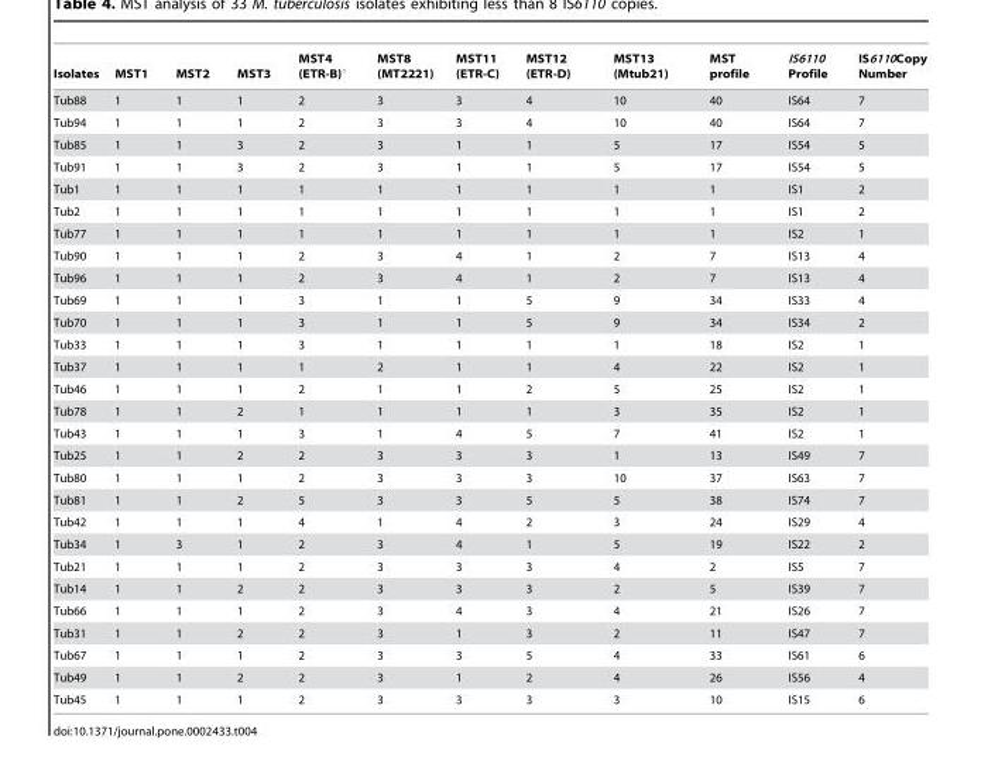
<table><thead><tr><td>Isolates</td><td>MST1</td><td>MST2</td><td>MST3</td><td>MST4 (ETR-B)°</td><td>MST8 (MT2221)</td><td>MST11 (ETR-C)</td><td>MST12 (ETR-D)</td><td>MST13 (Mtub21)</td><td>MST profile</td><td>IS6110 Profile</td><td>IS6110Copy Number</td></tr></thead><tbody><tr><td>Tub88</td><td>1</td><td>1</td><td>1</td><td>2</td><td>3</td><td>3</td><td>4</td><td>10</td><td>40</td><td>IS64</td><td>7</td></tr><tr><td>Tub94</td><td>1</td><td>1</td><td>1</td><td>2</td><td>3</td><td>3</td><td>4</td><td>10</td><td>40</td><td>IS64</td><td>7</td></tr><tr><td>Tub85</td><td>1</td><td>1</td><td>3</td><td>2</td><td>3</td><td>1</td><td>1</td><td>5</td><td>17</td><td>IS54</td><td>5</td></tr><tr><td>Tub91</td><td>1</td><td>1</td><td>3</td><td>2</td><td>3</td><td>1</td><td>1</td><td>5</td><td>17</td><td>IS54</td><td>5</td></tr><tr><td>Tub1</td><td>1</td><td>1</td><td>1</td><td>1</td><td>1</td><td>1</td><td>1</td><td>1</td><td>1</td><td>IS1</td><td>2</td></tr><tr><td>Tub2</td><td>1</td><td>1</td><td>1</td><td>1</td><td>1</td><td>1</td><td>1</td><td>1</td><td>1</td><td>IS1</td><td>2</td></tr><tr><td>Tub77</td><td>1</td><td>1</td><td>1</td><td>1</td><td>1</td><td>1</td><td>1</td><td>1</td><td>1</td><td>IS2</td><td>1</td></tr><tr><td>Tub90</td><td>1</td><td>1</td><td>1</td><td>2</td><td>3</td><td>4</td><td>1</td><td>2</td><td>7</td><td>IS13</td><td>4</td></tr><tr><td>Tub96</td><td>1</td><td>1</td><td>1</td><td>2</td><td>3</td><td>4</td><td>1</td><td>2</td><td>7</td><td>IS13</td><td>4</td></tr><tr><td>Tub69</td><td>1</td><td>1</td><td>1</td><td>3</td><td>1</td><td>1</td><td>5</td><td>9</td><td>34</td><td>IS33</td><td>4</td></tr><tr><td>Tub70</td><td>1</td><td>1</td><td>1</td><td>3</td><td>1</td><td>1</td><td>5</td><td>9</td><td>34</td><td>IS34</td><td>2</td></tr><tr><td>Tub33</td><td>1</td><td>1</td><td>1</td><td>3</td><td>1</td><td>1</td><td>1</td><td>1</td><td>18</td><td>IS2</td><td>1</td></tr><tr><td>Tub37</td><td>1</td><td>1</td><td>1</td><td>1</td><td>2</td><td>1</td><td>1</td><td>4</td><td>22</td><td>IS2</td><td>1</td></tr><tr><td>Tub46</td><td>1</td><td>1</td><td>1</td><td>2</td><td>1</td><td>1</td><td>2</td><td>5</td><td>25</td><td>IS2</td><td>1</td></tr><tr><td>Tub78</td><td>1</td><td>1</td><td>2</td><td>1</td><td>1</td><td>1</td><td>1</td><td>3</td><td>35</td><td>IS2</td><td>1</td></tr><tr><td>Tub43</td><td>1</td><td>1</td><td>1</td><td>3</td><td>1</td><td>4</td><td>5</td><td>7</td><td>41</td><td>IS2</td><td>1</td></tr><tr><td>Tub25</td><td>1</td><td>1</td><td>2</td><td>2</td><td>3</td><td>3</td><td>3</td><td>1</td><td>13</td><td>IS49</td><td>7</td></tr><tr><td>Tub80</td><td>1</td><td>1</td><td>1</td><td>2</td><td>3</td><td>3</td><td>3</td><td>10</td><td>37</td><td>IS63</td><td>7</td></tr><tr><td>Tub81</td><td>1</td><td>1</td><td>2</td><td>5</td><td>3</td><td>3</td><td>5</td><td>5</td><td>38</td><td>IS74</td><td>7</td></tr><tr><td>Tub42</td><td>1</td><td>1</td><td>1</td><td>4</td><td>1</td><td>4</td><td>2</td><td>3</td><td>24</td><td>IS29</td><td>4</td></tr><tr><td>Tub34</td><td>1</td><td>3</td><td>1</td><td>2</td><td>3</td><td>4</td><td>1</td><td>5</td><td>19</td><td>IS22</td><td>2</td></tr><tr><td>Tub21</td><td>1</td><td>1</td><td>1</td><td>2</td><td>3</td><td>3</td><td>3</td><td>4</td><td>2</td><td>IS5</td><td>7</td></tr><tr><td>Tub14</td><td>1</td><td>1</td><td>2</td><td>2</td><td>3</td><td>3</td><td>3</td><td>2</td><td>5</td><td>IS39</td><td>7</td></tr><tr><td>Tub66</td><td>1</td><td>1</td><td>1</td><td>2</td><td>3</td><td>4</td><td>3</td><td>4</td><td>21</td><td>IS26</td><td>7</td></tr><tr><td>Tub31</td><td>1</td><td>1</td><td>2</td><td>2</td><td>3</td><td>1</td><td>3</td><td>2</td><td>11</td><td>IS47</td><td>7</td></tr><tr><td>Tub67</td><td>1</td><td>1</td><td>1</td><td>2</td><td>3</td><td>3</td><td>5</td><td>4</td><td>33</td><td>IS61</td><td>6</td></tr><tr><td>Tub49</td><td>1</td><td>1</td><td>2</td><td>2</td><td>3</td><td>1</td><td>2</td><td>4</td><td>26</td><td>IS56</td><td>4</td></tr><tr><td>Tub45</td><td>1</td><td>1</td><td>1</td><td>2</td><td>3</td><td>3</td><td>3</td><td>3</td><td>10</td><td>IS15</td><td>6</td></tr></tbody></table>